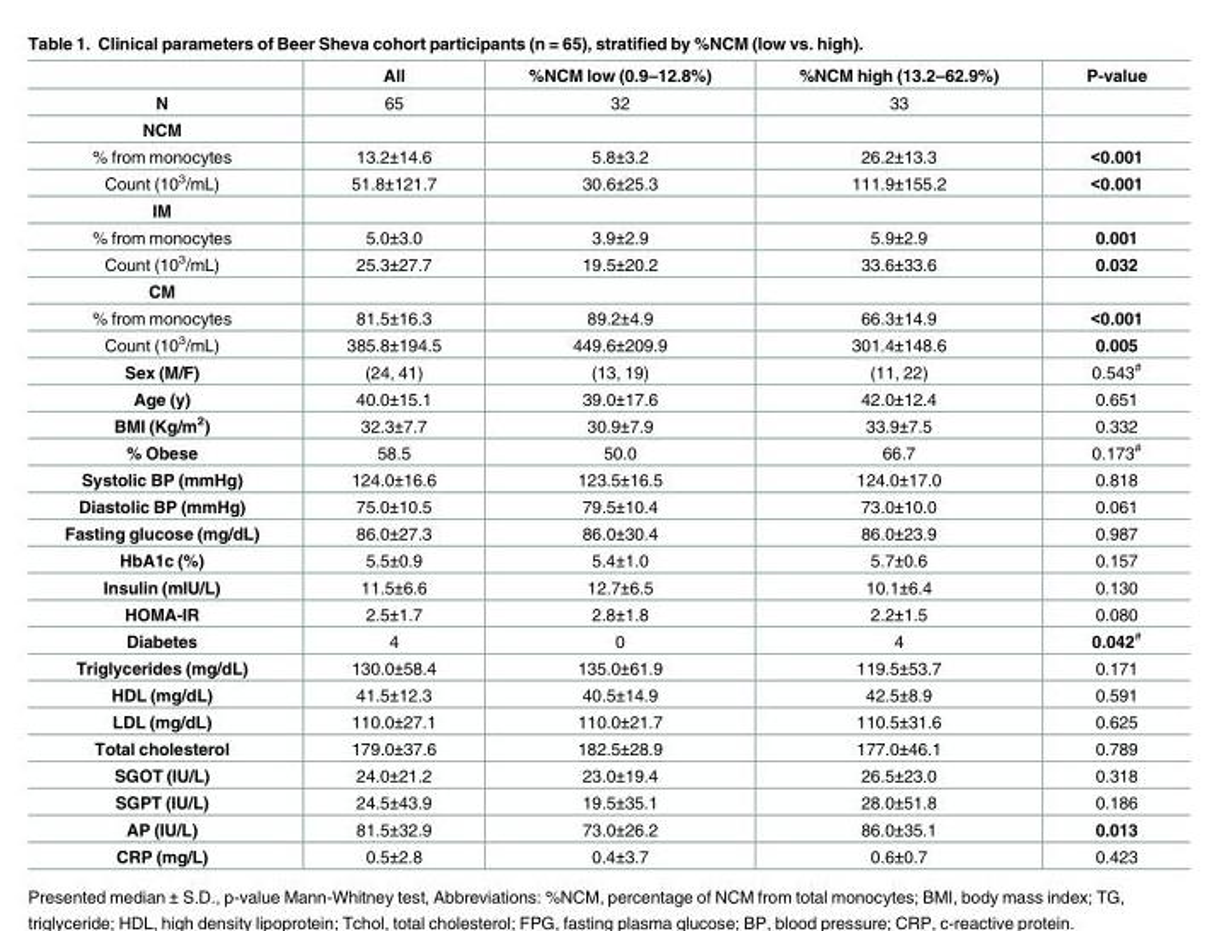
<table><thead><tr><td></td><td>All</td><td>%NCM low (0.9–12.8%)</td><td>%NCM high (13.2–62.9%)</td><td>P-value</td></tr></thead><tbody><tr><td>N</td><td>65</td><td>32</td><td>33</td><td></td></tr><tr><td colspan="5">NCM</td></tr><tr><td>% from monocytes</td><td>13.2±14.6</td><td>5.8±3.2</td><td>26.2±13.3</td><td>&lt;0.001</td></tr><tr><td>Count (10<sup>3</sup>/mL)</td><td>51.8±121.7</td><td>30.6±25.3</td><td>111.9±155.2</td><td>&lt;0.001</td></tr><tr><td colspan="5">IM</td></tr><tr><td>% from monocytes</td><td>5.0±3.0</td><td>3.9±2.9</td><td>5.9±2.9</td><td>0.001</td></tr><tr><td>Count (10<sup>3</sup>/mL)</td><td>25.3±27.7</td><td>19.5±20.2</td><td>33.6±33.6</td><td>0.032</td></tr><tr><td colspan="5">CM</td></tr><tr><td>% from monocytes</td><td>81.5±16.3</td><td>89.2±4.9</td><td>66.3±14.9</td><td>&lt;0.001</td></tr><tr><td>Count (10<sup>3</sup>/mL)</td><td>385.8±194.5</td><td>449.6±209.9</td><td>301.4±148.6</td><td>0.005</td></tr><tr><td>Sex (M/F)</td><td>(24, 41)</td><td>(13, 19)</td><td>(11, 22)</td><td>0.543<sup>#</sup></td></tr><tr><td>Age (y)</td><td>40.0±15.1</td><td>39.0±17.6</td><td>42.0±12.4</td><td>0.651</td></tr><tr><td>BMI (Kg/m<sup>2</sup>)</td><td>32.3±7.7</td><td>30.9±7.9</td><td>33.9±7.5</td><td>0.332</td></tr><tr><td>% Obese</td><td>58.5</td><td>50.0</td><td>66.7</td><td>0.173<sup>#</sup></td></tr><tr><td>Systolic BP (mmHg)</td><td>124.0±16.6</td><td>123.5±16.5</td><td>124.0±17.0</td><td>0.818</td></tr><tr><td>Diastolic BP (mmHg)</td><td>75.0±10.5</td><td>79.5±10.4</td><td>73.0±10.0</td><td>0.061</td></tr><tr><td>Fasting glucose (mg/dL)</td><td>86.0±27.3</td><td>86.0±30.4</td><td>86.0±23.9</td><td>0.987</td></tr><tr><td>HbA1c (%)</td><td>5.5±0.9</td><td>5.4±1.0</td><td>5.7±0.6</td><td>0.157</td></tr><tr><td>Insulin (mIU/L)</td><td>11.5±6.6</td><td>12.7±6.5</td><td>10.1±6.4</td><td>0.130</td></tr><tr><td>HOMA-IR</td><td>2.5±1.7</td><td>2.8±1.8</td><td>2.2±1.5</td><td>0.080</td></tr><tr><td>Diabetes</td><td>4</td><td>0</td><td>4</td><td>0.042<sup>#</sup></td></tr><tr><td>Triglycerides (mg/dL)</td><td>130.0±58.4</td><td>135.0±61.9</td><td>119.5±53.7</td><td>0.171</td></tr><tr><td>HDL (mg/dL)</td><td>41.5±12.3</td><td>40.5±14.9</td><td>42.5±8.9</td><td>0.591</td></tr><tr><td>LDL (mg/dL)</td><td>110.0±27.1</td><td>110.0±21.7</td><td>110.5±31.6</td><td>0.625</td></tr><tr><td>Total cholesterol</td><td>179.0±37.6</td><td>182.5±28.9</td><td>177.0±46.1</td><td>0.789</td></tr><tr><td>SGOT (IU/L)</td><td>24.0±21.2</td><td>23.0±19.4</td><td>26.5±23.0</td><td>0.318</td></tr><tr><td>SGPT (IU/L)</td><td>24.5±43.9</td><td>19.5±35.1</td><td>28.0±51.8</td><td>0.186</td></tr><tr><td>AP (IU/L)</td><td>81.5±32.9</td><td>73.0±26.2</td><td>86.0±35.1</td><td>0.013</td></tr><tr><td>CRP (mg/L)</td><td>0.5±2.8</td><td>0.4±3.7</td><td>0.6±0.7</td><td>0.423</td></tr></tbody></table>